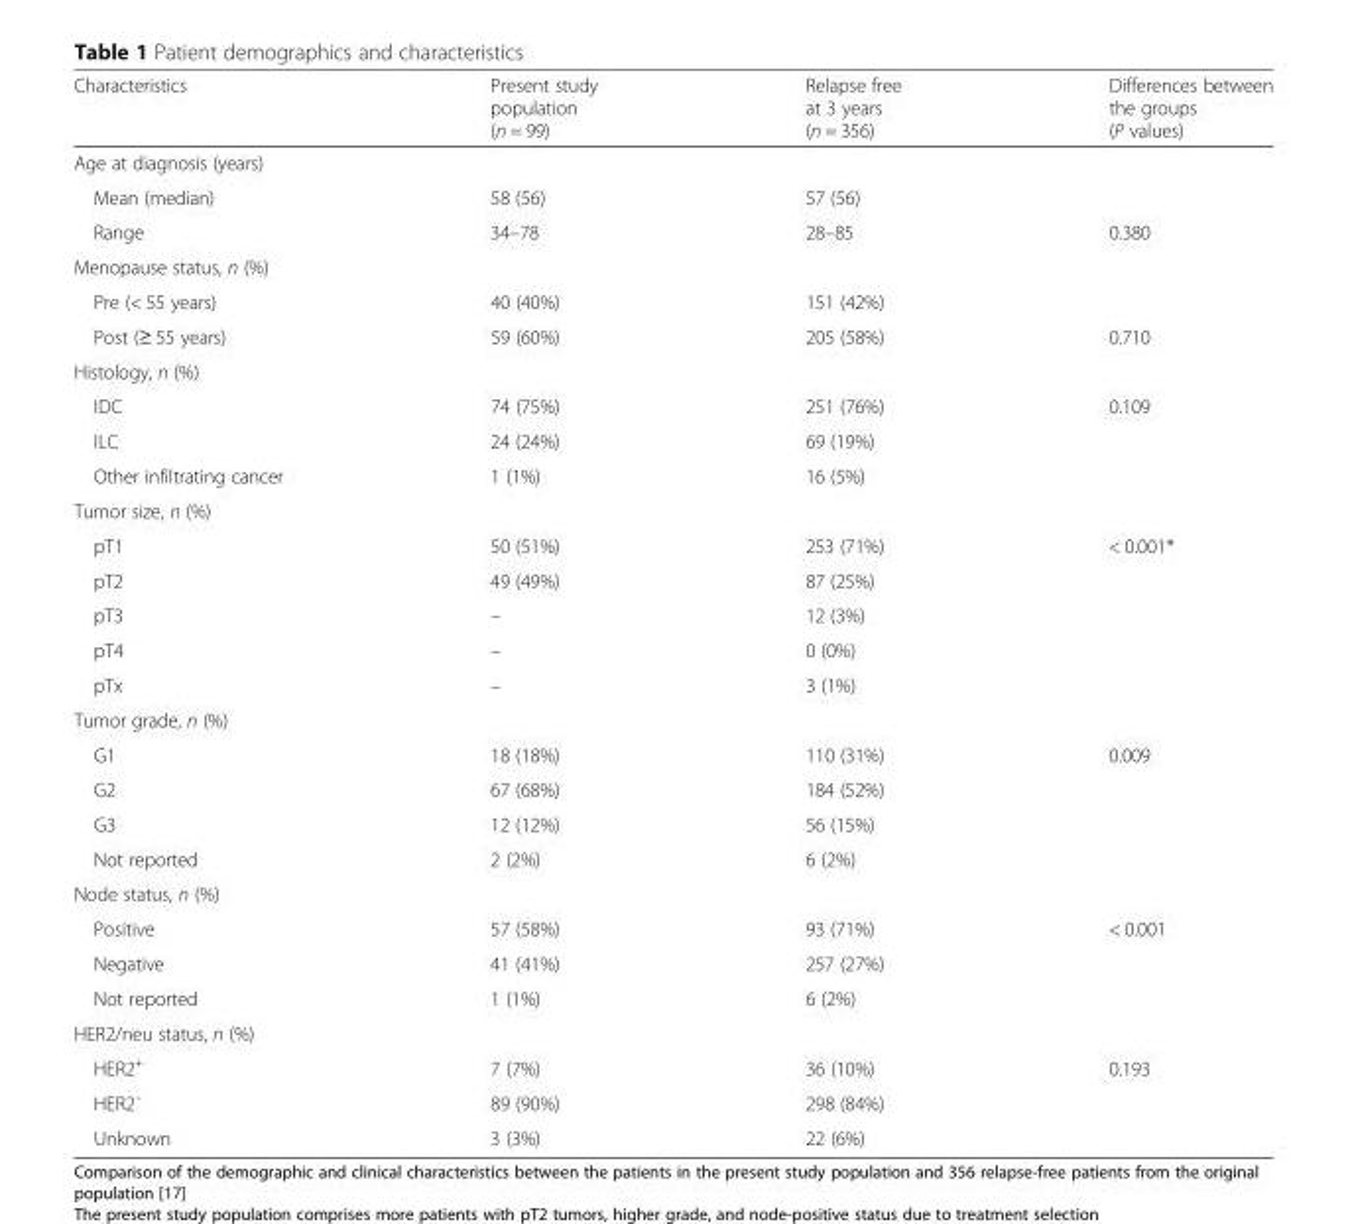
<table><thead><tr><td>Characteristics</td><td>Present study population (n = 99)</td><td>Relapse free at 3 years (n = 356)</td><td>Differences between the groups (P values)</td></tr></thead><tbody><tr><td colspan="4">Age at diagnosis (years)</td></tr><tr><td>Mean (median)</td><td>58 (56)</td><td>57 (56)</td><td></td></tr><tr><td>Range</td><td>34–78</td><td>28–85</td><td>0.380</td></tr><tr><td colspan="4">Menopause status, n (%)</td></tr><tr><td>Pre (&lt; 55 years)</td><td>40 (40%)</td><td>151 (42%)</td><td></td></tr><tr><td>Post (≥ 55 years)</td><td>59 (60%)</td><td>205 (58%)</td><td>0.710</td></tr><tr><td colspan="4">Histology, n (%)</td></tr><tr><td>IDC</td><td>74 (75%)</td><td>251 (76%)</td><td rowspan="3">0.109</td></tr><tr><td>ILC</td><td>24 (24%)</td><td>69 (19%)</td></tr><tr><td>Other infiltrating cancer</td><td>1 (1%)</td><td>16 (5%)</td></tr><tr><td colspan="4">Tumor size, n (%)</td></tr><tr><td>pT1</td><td>50 (51%)</td><td>253 (71%)</td><td rowspan="2">&lt; 0.001*</td></tr><tr><td>pT2</td><td>49 (49%)</td><td>87 (25%)</td></tr><tr><td>pT3</td><td>–</td><td>12 (3%)</td><td></td></tr><tr><td>pT4</td><td>–</td><td>0 (0%)</td><td></td></tr><tr><td>pTx</td><td>–</td><td>3 (1%)</td><td></td></tr><tr><td colspan="4">Tumor grade, n (%)</td></tr><tr><td>G1</td><td>18 (18%)</td><td>110 (31%)</td><td rowspan="4">0.009</td></tr><tr><td>G2</td><td>67 (68%)</td><td>184 (52%)</td></tr><tr><td>G3</td><td>12 (12%)</td><td>56 (15%)</td></tr><tr><td>Not reported</td><td>2 (2%)</td><td>6 (2%)</td></tr><tr><td colspan="4">Node status, n (%)</td></tr><tr><td>Positive</td><td>57 (58%)</td><td>93 (71%)</td><td rowspan="3">&lt; 0.001</td></tr><tr><td>Negative</td><td>41 (41%)</td><td>257 (27%)</td></tr><tr><td>Not reported</td><td>1 (1%)</td><td>6 (2%)</td></tr><tr><td colspan="4">HER2/neu status, n (%)</td></tr><tr><td>HER2<sup>+</sup></td><td>7 (7%)</td><td>36 (10%)</td><td rowspan="3">0.193</td></tr><tr><td>HER2<sup>–</sup></td><td>89 (90%)</td><td>298 (84%)</td></tr><tr><td>Unknown</td><td>3 (3%)</td><td>22 (6%)</td></tr></tbody></table>